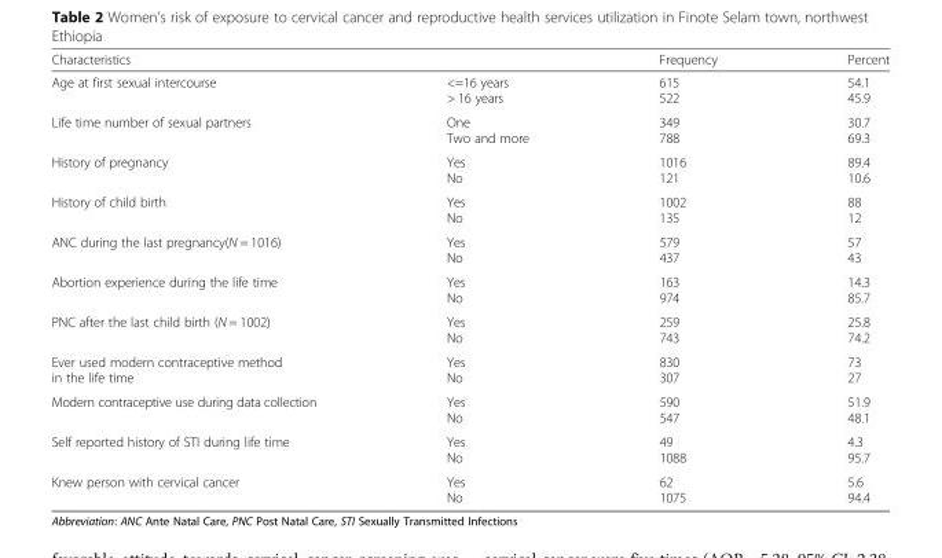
<table><thead><tr><td>Characteristics</td><td></td><td>Frequency</td><td>Percent</td></tr></thead><tbody><tr><td>Age at first sexual intercourse</td><td>&lt;=16 years &gt; 16 years</td><td>615 522</td><td>54.1 45.9</td></tr><tr><td>Life time number of sexual partners</td><td>One Two and more</td><td>349 788</td><td>30.7 69.3</td></tr><tr><td>History of pregnancy</td><td>Yes No</td><td>1016 121</td><td>89.4 10.6</td></tr><tr><td>History of child birth</td><td>Yes No</td><td>1002 135</td><td>88 12</td></tr><tr><td>ANC during the last pregnancy(N = 1016)</td><td>Yes No</td><td>579 437</td><td>57 43</td></tr><tr><td>Abortion experience during the life time</td><td>Yes No</td><td>163 974</td><td>14.3 85.7</td></tr><tr><td>PNC after the last child birth (N = 1002)</td><td>Yes No</td><td>259 743</td><td>25.8 74.2</td></tr><tr><td>Ever used modern contraceptive method in the life time</td><td>Yes No</td><td>830 307</td><td>73 27</td></tr><tr><td>Modern contraceptive use during data collection</td><td>Yes No</td><td>590 547</td><td>51.9 48.1</td></tr><tr><td>Self reported history of STI during life time</td><td>Yes No</td><td>49 1088</td><td>4.3 95.7</td></tr><tr><td>Knew person with cervical cancer</td><td>Yes No</td><td>62 1075</td><td>5.6 94.4</td></tr></tbody></table>